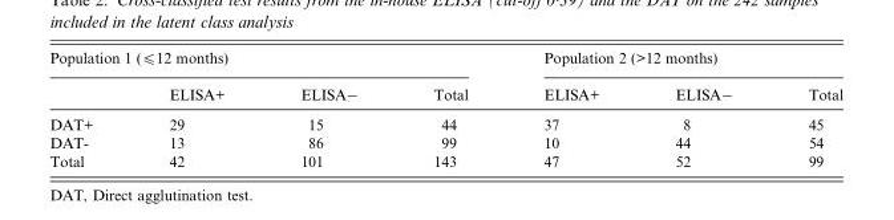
<table><thead><tr><td colspan="4">Population 1 (⩽12 months)</td><td colspan="3">Population 2 (&gt;12 months)</td></tr><tr><td></td><td>ELISA+</td><td>ELISA−</td><td>Total</td><td>ELISA+</td><td>ELISA−</td><td>Total</td></tr></thead><tbody><tr><td>DAT+</td><td>29</td><td>15</td><td>44</td><td>37</td><td>8</td><td>45</td></tr><tr><td>DAT-</td><td>13</td><td>86</td><td>99</td><td>10</td><td>44</td><td>54</td></tr><tr><td>Total</td><td>42</td><td>101</td><td>143</td><td>47</td><td>52</td><td>99</td></tr></tbody></table>